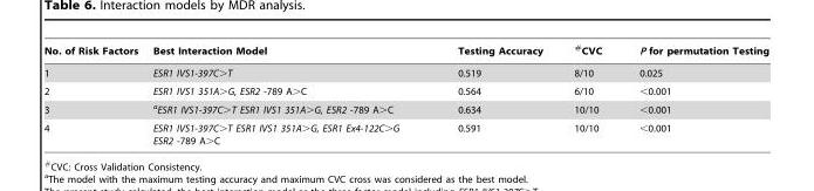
<table><thead><tr><td>No. of Risk Factors</td><td>Best Interaction Model</td><td>Testing Accuracy</td><td>#CVC</td><td>P for permutation Testing</td></tr></thead><tbody><tr><td>1</td><td>ESR1 IVS1-397C&gt;T</td><td>0.519</td><td>8/10</td><td>0.025</td></tr><tr><td>2</td><td>ESR1 IVS1 351A&gt;G, ESR2 -789 A&gt;C</td><td>0.564</td><td>6/10</td><td>&lt;0.001</td></tr><tr><td>3</td><td>aESR1 IVS1-397C&gt;T ESR1 IVS1 351A&gt;G, ESR2 -789 A&gt;C</td><td>0.634</td><td>10/10</td><td>&lt;0.001</td></tr><tr><td>4</td><td>ESR1 IVS1-397C&gt;T ESR1 IVS1 351A&gt;G, ESR1 Ex4-122C&gt;G ESR2 -789 A&gt;C</td><td>0.591</td><td>10/10</td><td>&lt;0.001</td></tr></tbody></table>